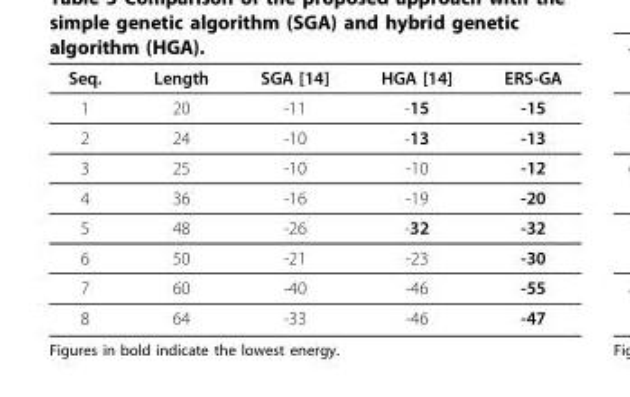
<table><thead><tr><td>Seq.</td><td>Length</td><td>SGA [14]</td><td>HGA [14]</td><td>ERS-GA</td></tr></thead><tbody><tr><td>1</td><td>20</td><td>-11</td><td>-15</td><td>-15</td></tr><tr><td>2</td><td>24</td><td>-10</td><td>-13</td><td>-13</td></tr><tr><td>3</td><td>25</td><td>-10</td><td>-10</td><td>-12</td></tr><tr><td>4</td><td>36</td><td>-16</td><td>-19</td><td>-20</td></tr><tr><td>5</td><td>48</td><td>-26</td><td>-32</td><td>-32</td></tr><tr><td>6</td><td>50</td><td>-21</td><td>-23</td><td>-30</td></tr><tr><td>7</td><td>60</td><td>-40</td><td>-46</td><td>-55</td></tr><tr><td>8</td><td>64</td><td>-33</td><td>-46</td><td>-47</td></tr></tbody></table>